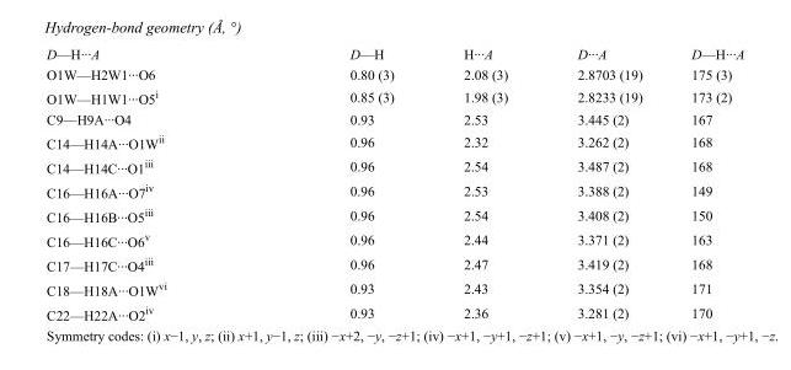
<table><tbody><tr><td>D—H···A</td><td>D—H</td><td>H···A</td><td>D···A</td><td>D—H···A</td></tr><tr><td>O1W—H2W1···O6</td><td>0.80 (3)</td><td>2.08 (3)</td><td>2.8703 (19)</td><td>175 (3)</td></tr><tr><td>O1W—H1W1···O5<sup>i</sup></td><td>0.85 (3)</td><td>1.98 (3)</td><td>2.8233 (19)</td><td>173 (2)</td></tr><tr><td>C9—H9A···O4</td><td>0.93</td><td>2.53</td><td>3.445 (2)</td><td>167</td></tr><tr><td>C14—H14A···O1W<sup>ii</sup></td><td>0.96</td><td>2.32</td><td>3.262 (2)</td><td>168</td></tr><tr><td>C14—H14C···O1<sup>iii</sup></td><td>0.96</td><td>2.54</td><td>3.487 (2)</td><td>168</td></tr><tr><td>C16—H16A···O7<sup>iv</sup></td><td>0.96</td><td>2.53</td><td>3.388 (2)</td><td>149</td></tr><tr><td>C16—H16B···O5<sup>iii</sup></td><td>0.96</td><td>2.54</td><td>3.408 (2)</td><td>150</td></tr><tr><td>C16—H16C···O6<sup>v</sup></td><td>0.96</td><td>2.44</td><td>3.371 (2)</td><td>163</td></tr><tr><td>C17—H17C···O4<sup>iii</sup></td><td>0.96</td><td>2.47</td><td>3.419 (2)</td><td>168</td></tr><tr><td>C18—H18A···O1W<sup>vi</sup></td><td>0.93</td><td>2.43</td><td>3.354 (2)</td><td>171</td></tr><tr><td>C22—H22A···O2<sup>iv</sup></td><td>0.93</td><td>2.36</td><td>3.281 (2)</td><td>170</td></tr></tbody></table>